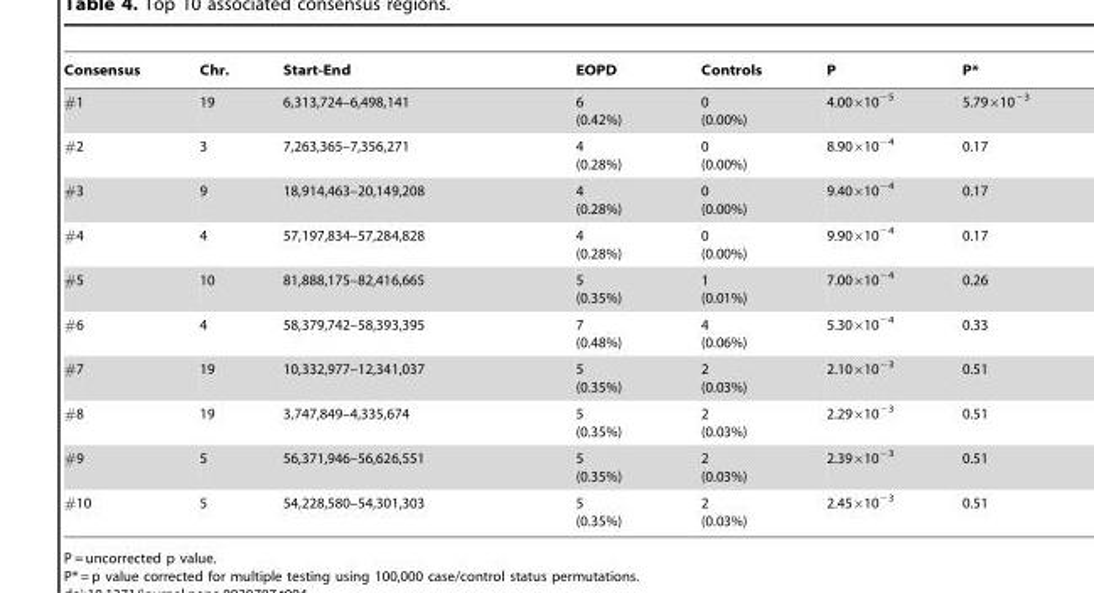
<table><thead><tr><td>Consensus</td><td>Chr.</td><td>Start-End</td><td>EOPD</td><td>Controls</td><td>P</td><td>P*</td></tr></thead><tbody><tr><td>#1</td><td>19</td><td>6,313,724–6,498,141</td><td>6 (0.42%)</td><td>0 (0.00%)</td><td>4.00×10<sup>−5</sup></td><td>5.79×10<sup>−3</sup></td></tr><tr><td>#2</td><td>3</td><td>7,263,365–7,356,271</td><td>4 (0.28%)</td><td>0 (0.00%)</td><td>8.90×10<sup>−4</sup></td><td>0.17</td></tr><tr><td>#3</td><td>9</td><td>18,914,463–20,149,208</td><td>4 (0.28%)</td><td>0 (0.00%)</td><td>9.40×10<sup>−4</sup></td><td>0.17</td></tr><tr><td>#4</td><td>4</td><td>57,197,834–57,284,828</td><td>4 (0.28%)</td><td>0 (0.00%)</td><td>9.90×10<sup>−4</sup></td><td>0.17</td></tr><tr><td>#5</td><td>10</td><td>81,888,175–82,416,665</td><td>5 (0.35%)</td><td>1 (0.01%)</td><td>7.00×10<sup>−4</sup></td><td>0.26</td></tr><tr><td>#6</td><td>4</td><td>58,379,742–58,393,395</td><td>7 (0.48%)</td><td>4 (0.06%)</td><td>5.30×10<sup>−4</sup></td><td>0.33</td></tr><tr><td>#7</td><td>19</td><td>10,332,977–12,341,037</td><td>5 (0.35%)</td><td>2 (0.03%)</td><td>2.10×10<sup>−3</sup></td><td>0.51</td></tr><tr><td>#8</td><td>19</td><td>3,747,849–4,335,674</td><td>5 (0.35%)</td><td>2 (0.03%)</td><td>2.29×10<sup>−3</sup></td><td>0.51</td></tr><tr><td>#9</td><td>5</td><td>56,371,946–56,626,551</td><td>5 (0.35%)</td><td>2 (0.03%)</td><td>2.39×10<sup>−3</sup></td><td>0.51</td></tr><tr><td>#10</td><td>5</td><td>54,228,580–54,301,303</td><td>5 (0.35%)</td><td>2 (0.03%)</td><td>2.45×10<sup>−3</sup></td><td>0.51</td></tr></tbody></table>